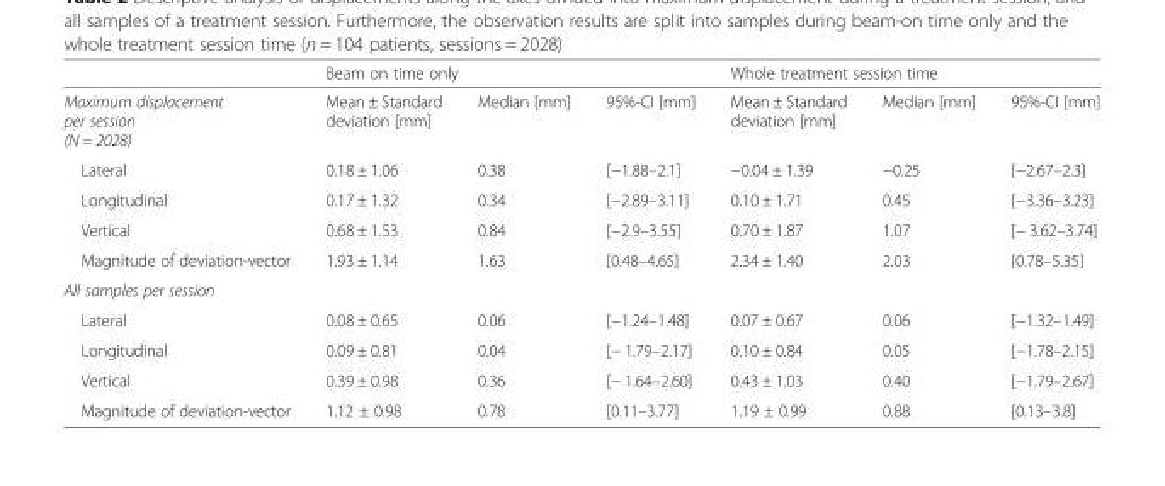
<table><thead><tr><td rowspan="2">Maximum displacement per session (N = 2028)</td><td colspan="3">Beam on time only</td><td colspan="3">Whole treatment session time</td></tr><tr><td>Mean ± Standard deviation [mm]</td><td>Median [mm]</td><td>95%-CI [mm]</td><td>Mean ± Standard deviation [mm]</td><td>Median [mm]</td><td>95%-CI [mm]</td></tr></thead><tbody><tr><td>Lateral</td><td>0.18 ± 1.06</td><td>0.38</td><td>[−1.88–2.1]</td><td>−0.04 ± 1.39</td><td>−0.25</td><td>[−2.67–2.3]</td></tr><tr><td>Longitudinal</td><td>0.17 ± 1.32</td><td>0.34</td><td>[−2.89–3.11]</td><td>0.10 ± 1.71</td><td>0.45</td><td>[−3.36–3.23]</td></tr><tr><td>Vertical</td><td>0.68 ± 1.53</td><td>0.84</td><td>[−2.9–3.55]</td><td>0.70 ± 1.87</td><td>1.07</td><td>[− 3.62–3.74]</td></tr><tr><td>Magnitude of deviation-vector</td><td>1.93 ± 1.14</td><td>1.63</td><td>[0.48–4.65]</td><td>2.34 ± 1.40</td><td>2.03</td><td>[0.78–5.35]</td></tr><tr><td colspan="7">All samples per session</td></tr><tr><td>Lateral</td><td>0.08 ± 0.65</td><td>0.06</td><td>[−1.24–1.48]</td><td>0.07 ± 0.67</td><td>0.06</td><td>[−1.32–1.49]</td></tr><tr><td>Longitudinal</td><td>0.09 ± 0.81</td><td>0.04</td><td>[− 1.79–2.17]</td><td>0.10 ± 0.84</td><td>0.05</td><td>[−1.78–2.15]</td></tr><tr><td>Vertical</td><td>0.39 ± 0.98</td><td>0.36</td><td>[− 1.64–2.60]</td><td>0.43 ± 1.03</td><td>0.40</td><td>[−1.79–2.67]</td></tr><tr><td>Magnitude of deviation-vector</td><td>1.12 ± 0.98</td><td>0.78</td><td>[0.11–3.77]</td><td>1.19 ± 0.99</td><td>0.88</td><td>[0.13–3.8]</td></tr></tbody></table>